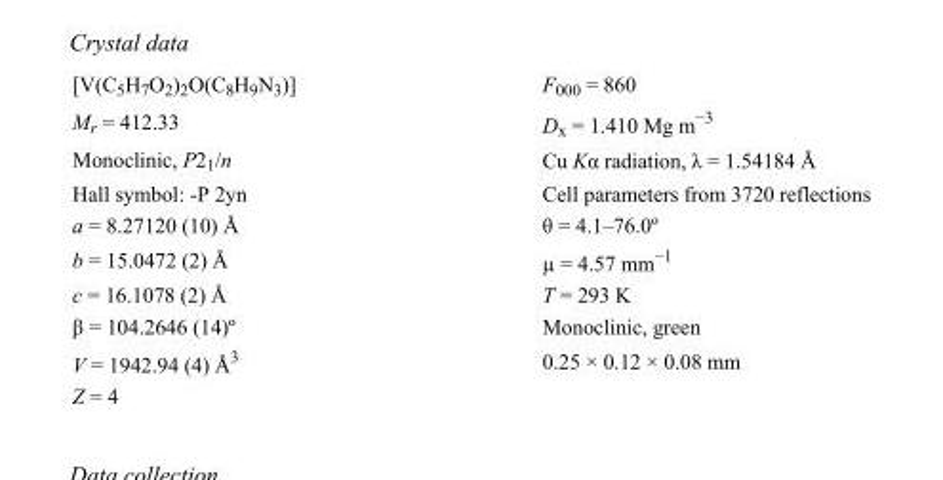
<table><tbody><tr><td>[V(C<sub>5</sub>H<sub>7</sub>O<sub>2</sub>)<sub>2</sub>O(C<sub>8</sub>H<sub>9</sub>N<sub>3</sub>)]</td><td>F000 = 860</td></tr><tr><td>M<sub>r</sub> = 412.33</td><td>D<sub>x</sub> = 1.410 Mg m<sup>−3</sup></td></tr><tr><td>Monoclinic, P2<sub>1</sub>/n</td><td>Cu Kα radiation, λ = 1.54184 Å</td></tr><tr><td>Hall symbol: -P 2yn</td><td>Cell parameters from 3720 reflections</td></tr><tr><td>a = 8.27120 (10) Å</td><td>θ = 4.1–76.0º</td></tr><tr><td>b = 15.0472 (2) Å</td><td>µ = 4.57 mm<sup>−1</sup></td></tr><tr><td>c = 16.1078 (2) Å</td><td>T = 293 K</td></tr><tr><td>β = 104.2646 (14)º</td><td>Monoclinic, green</td></tr><tr><td>V = 1942.94 (4) Å<sup>3</sup></td><td>0.25 × 0.12 × 0.08 mm</td></tr><tr><td>Z = 4</td><td></td></tr></tbody></table>